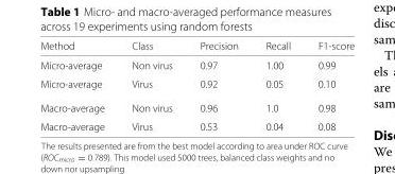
<table><thead><tr><td>Method</td><td>Class</td><td>Precision</td><td>Recall</td><td>F1-score</td></tr></thead><tbody><tr><td>Micro-average</td><td>Non virus</td><td>0.97</td><td>1.00</td><td>0.99</td></tr><tr><td>Micro-average</td><td>Virus</td><td>0.92</td><td>0.05</td><td>0.10</td></tr><tr><td>Macro-average</td><td>Non virus</td><td>0.96</td><td>1.0</td><td>0.98</td></tr><tr><td>Macro-average</td><td>Virus</td><td>0.53</td><td>0.04</td><td>0.08</td></tr></tbody></table>